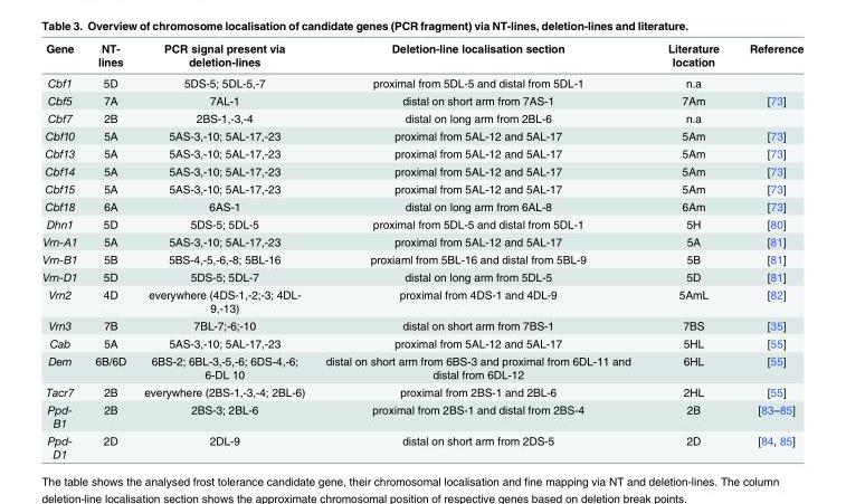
<table><thead><tr><td>Gene</td><td>NT- lines</td><td>PCR signal present via deletion-lines</td><td>Deletion-line localisation section</td><td>Literature location</td><td>Reference</td></tr></thead><tbody><tr><td>Cbf1</td><td>5D</td><td>5DS-5; 5DL-5,-7</td><td>proximal from 5DL-5 and distal from 5DL-1</td><td>n.a</td><td></td></tr><tr><td>Cbf5</td><td>7A</td><td>7AL-1</td><td>distal on short arm from 7AS-1</td><td>7Am</td><td>[73]</td></tr><tr><td>Cbf7</td><td>2B</td><td>2BS-1,-3,-4</td><td>distal on long arm from 2BL-6</td><td>n.a</td><td></td></tr><tr><td>Cbf10</td><td>5A</td><td>5AS-3,-10; 5AL-17,-23</td><td>proximal from 5AL-12 and 5AL-17</td><td>5Am</td><td>[73]</td></tr><tr><td>Cbf13</td><td>5A</td><td>5AS-3,-10; 5AL-17,-23</td><td>proximal from 5AL-12 and 5AL-17</td><td>5Am</td><td>[73]</td></tr><tr><td>Cbf14</td><td>5A</td><td>5AS-3,-10; 5AL-17,-23</td><td>proximal from 5AL-12 and 5AL-17</td><td>5Am</td><td>[73]</td></tr><tr><td>Cbf15</td><td>5A</td><td>5AS-3,-10; 5AL-17,-23</td><td>proximal from 5AL-12 and 5AL-17</td><td>5Am</td><td>[73]</td></tr><tr><td>Cbf18</td><td>6A</td><td>6AS-1</td><td>distal on long arm from 6AL-8</td><td>6Am</td><td>[73]</td></tr><tr><td>Dhn1</td><td>5D</td><td>5DS-5; 5DL-5</td><td>proximal from 5DL-5 and distal from 5DL-1</td><td>5H</td><td>[80]</td></tr><tr><td>Vrn-A1</td><td>5A</td><td>5AS-3,-10; 5AL-17,-23</td><td>proximal from 5AL-12 and 5AL-17</td><td>5A</td><td>[81]</td></tr><tr><td>Vrn-B1</td><td>5B</td><td>5BS-4,-5,-6,-8; 5BL-16</td><td>proxiaml from 5BL-16 and distal from 5BL-9</td><td>5B</td><td>[81]</td></tr><tr><td>Vrn-D1</td><td>5D</td><td>5DS-5; 5DL-7</td><td>distal on long arm from 5DL-5</td><td>5D</td><td>[81]</td></tr><tr><td>Vrn2</td><td>4D</td><td>everywhere (4DS-1,-2;-3; 4DL- 9,-13)</td><td>proximal from 4DS-1 and 4DL-9</td><td>5AmL</td><td>[82]</td></tr><tr><td>Vrn3</td><td>7B</td><td>7BL-7;-6;-10</td><td>distal on short arm from 7BS-1</td><td>7BS</td><td>[35]</td></tr><tr><td>Cab</td><td>5A</td><td>5AS-3,-10; 5AL-17,-23</td><td>proximal from 5AL-12 and 5AL-17</td><td>5HL</td><td>[55]</td></tr><tr><td>Dem</td><td>6B/6D</td><td>6BS-2; 6BL-3,-5,-6; 6DS-4,-6; 6-DL 10</td><td>distal on short arm from 6BS-3 and proximal from 6DL-11 and distal from 6DL-12</td><td>6HL</td><td>[55]</td></tr><tr><td>Tacr7</td><td>2B</td><td>everywhere (2BS-1,-3,-4; 2BL-6)</td><td>proximal from 2BS-1 and 2BL-6</td><td>2HL</td><td>[55]</td></tr><tr><td>Ppd- B1</td><td>2B</td><td>2BS-3; 2BL-6</td><td>proximal from 2BS-1 and distal from 2BS-4</td><td>2B</td><td>[83–85]</td></tr><tr><td>Ppd- D1</td><td>2D</td><td>2DL-9</td><td>distal on short arm from 2DS-5</td><td>2D</td><td>[84, 85]</td></tr></tbody></table>